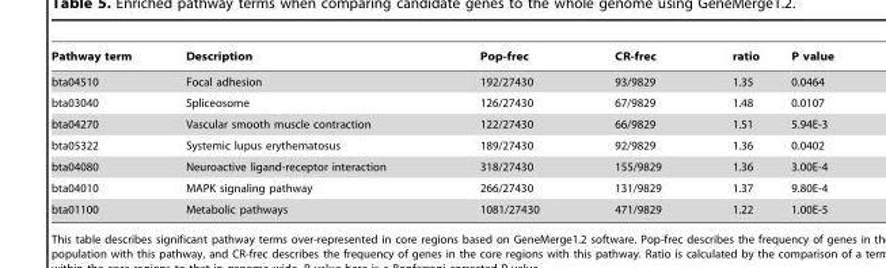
<table><thead><tr><td>Pathway term</td><td>Description</td><td>Pop-frec</td><td>CR-frec</td><td>ratio</td><td>P value</td></tr></thead><tbody><tr><td>bta04510</td><td>Focal adhesion</td><td>192/27430</td><td>93/9829</td><td>1.35</td><td>0.0464</td></tr><tr><td>bta03040</td><td>Spliceosome</td><td>126/27430</td><td>67/9829</td><td>1.48</td><td>0.0107</td></tr><tr><td>bta04270</td><td>Vascular smooth muscle contraction</td><td>122/27430</td><td>66/9829</td><td>1.51</td><td>5.94E-3</td></tr><tr><td>bta05322</td><td>Systemic lupus erythematosus</td><td>189/27430</td><td>92/9829</td><td>1.36</td><td>0.0402</td></tr><tr><td>bta04080</td><td>Neuroactive ligand-receptor interaction</td><td>318/27430</td><td>155/9829</td><td>1.36</td><td>3.00E-4</td></tr><tr><td>bta04010</td><td>MAPK signaling pathway</td><td>266/27430</td><td>131/9829</td><td>1.37</td><td>9.80E-4</td></tr><tr><td>bta01100</td><td>Metabolic pathways</td><td>1081/27430</td><td>471/9829</td><td>1.22</td><td>1.00E-5</td></tr></tbody></table>